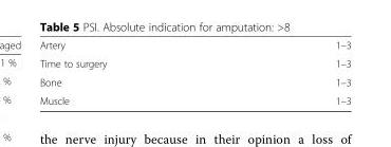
<table><tbody><tr><td>Artery</td><td>1–3</td></tr><tr><td>Time to surgery</td><td>1–3</td></tr><tr><td>Bone</td><td>1–3</td></tr><tr><td>Muscle</td><td>1–3</td></tr></tbody></table>